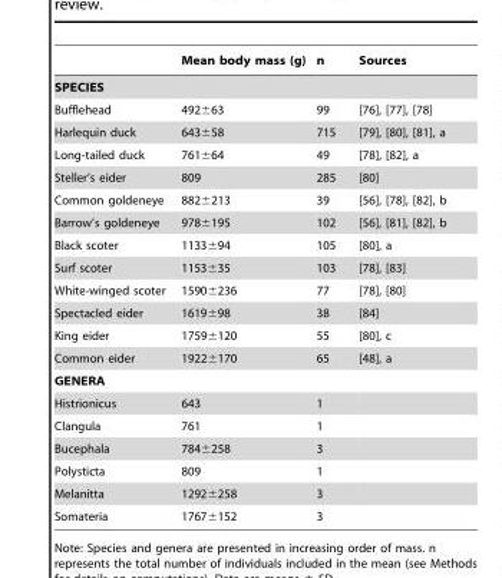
<table><thead><tr><td></td><td>Mean body mass (g)</td><td>n</td><td>Sources</td></tr></thead><tbody><tr><td colspan="4">SPECIES</td></tr><tr><td>Bufflehead</td><td>492±63</td><td>99</td><td>[76], [77], [78]</td></tr><tr><td>Harlequin duck</td><td>643±58</td><td>715</td><td>[79], [80], [81], a</td></tr><tr><td>Long-tailed duck</td><td>761±64</td><td>49</td><td>[78], [82], a</td></tr><tr><td>Steller’s eider</td><td>809</td><td>285</td><td>[80]</td></tr><tr><td>Common goldeneye</td><td>882±213</td><td>39</td><td>[56], [78], [82], b</td></tr><tr><td>Barrow’s goldeneye</td><td>978±195</td><td>102</td><td>[56], [81], [82], b</td></tr><tr><td>Black scoter</td><td>1133±94</td><td>105</td><td>[80], a</td></tr><tr><td>Surf scoter</td><td>1153±35</td><td>103</td><td>[78], [83]</td></tr><tr><td>White-winged scoter</td><td>1590±236</td><td>77</td><td>[78], [80]</td></tr><tr><td>Spectacled eider</td><td>1619±98</td><td>38</td><td>[84]</td></tr><tr><td>King eider</td><td>1759±120</td><td>55</td><td>[80], c</td></tr><tr><td>Common eider</td><td>1922±170</td><td>65</td><td>[48], a</td></tr><tr><td colspan="4">GENERA</td></tr><tr><td>Histrionicus</td><td>643</td><td>1</td><td></td></tr><tr><td>Clangula</td><td>761</td><td>1</td><td></td></tr><tr><td>Bucephala</td><td>784±258</td><td>3</td><td></td></tr><tr><td>Polysticta</td><td>809</td><td>1</td><td></td></tr><tr><td>Melanitta</td><td>1292±258</td><td>3</td><td></td></tr><tr><td>Somateria</td><td>1767±152</td><td>3</td><td></td></tr></tbody></table>